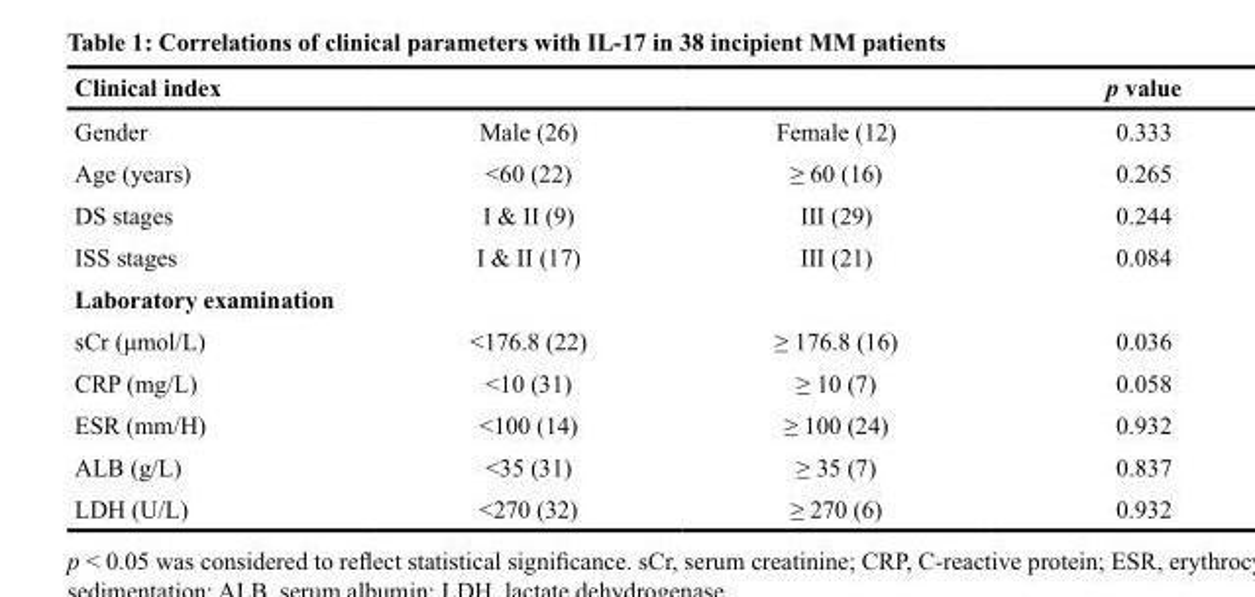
<table><thead><tr><td>Clinical index</td><td></td><td></td><td>p value</td></tr></thead><tbody><tr><td>Gender</td><td>Male (26)</td><td>Female (12)</td><td>0.333</td></tr><tr><td>Age (years)</td><td>&lt;60 (22)</td><td>≥ 60 (16)</td><td>0.265</td></tr><tr><td>DS stages</td><td>I &amp; II (9)</td><td>III (29)</td><td>0.244</td></tr><tr><td>ISS stages</td><td>I &amp; II (17)</td><td>III (21)</td><td>0.084</td></tr><tr><td colspan="4">Laboratory examination</td></tr><tr><td>sCr (μmol/L)</td><td>&lt;176.8 (22)</td><td>≥ 176.8 (16)</td><td>0.036</td></tr><tr><td>CRP (mg/L)</td><td>&lt;10 (31)</td><td>≥ 10 (7)</td><td>0.058</td></tr><tr><td>ESR (mm/H)</td><td>&lt;100 (14)</td><td>≥ 100 (24)</td><td>0.932</td></tr><tr><td>ALB (g/L)</td><td>&lt;35 (31)</td><td>≥ 35 (7)</td><td>0.837</td></tr><tr><td>LDH (U/L)</td><td>&lt;270 (32)</td><td>≥ 270 (6)</td><td>0.932</td></tr></tbody></table>